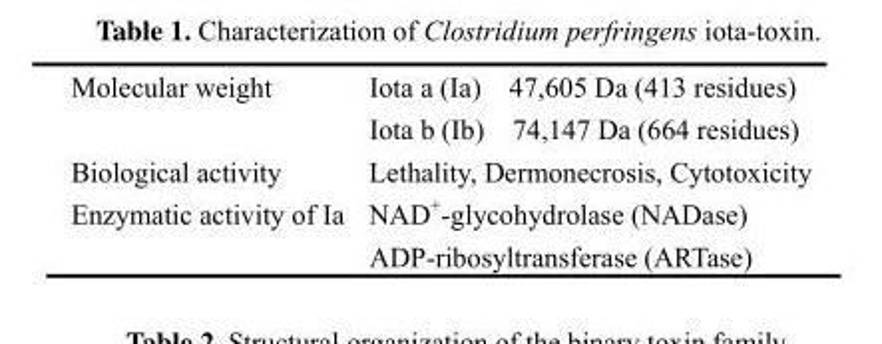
<table><tbody><tr><td rowspan="2">Molecular weight</td><td>Iota a (Ia) 47,605 Da (413 residues)</td></tr><tr><td>Iota b (Ib) 74,147 Da (664 residues)</td></tr><tr><td>Biological activity</td><td>Lethality, Dermonecrosis, Cytotoxicity</td></tr><tr><td rowspan="2">Enzymatic activity of Ia</td><td>NAD<sup>+</sup>-glycohydrolase (NADase)</td></tr><tr><td>ADP-ribosyltransferase (ARTase)</td></tr></tbody></table>